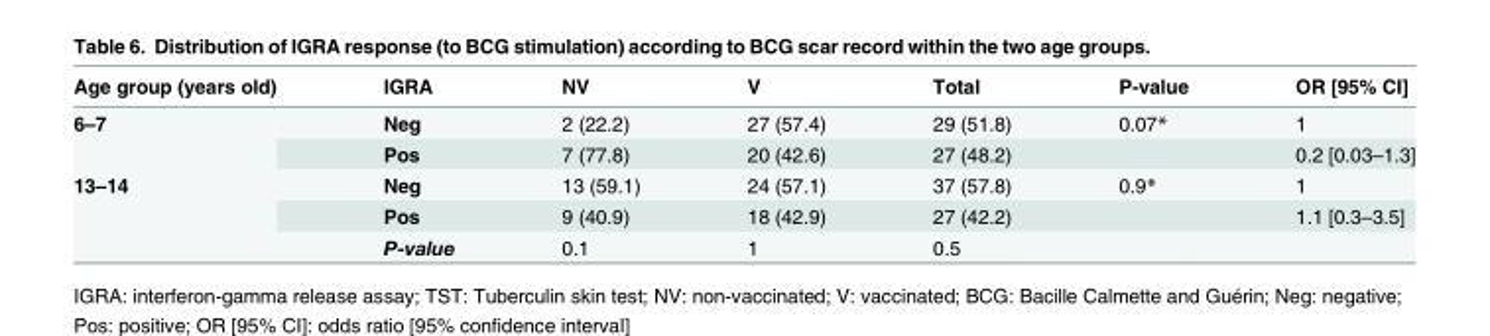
<table><thead><tr><td>Age group (years old)</td><td>IGRA</td><td>NV</td><td>V</td><td>Total</td><td>P-value</td><td>OR [95% CI]</td></tr></thead><tbody><tr><td rowspan="2">6–7</td><td>Neg</td><td>2 (22.2)</td><td>27 (57.4)</td><td>29 (51.8)</td><td>0.07*</td><td>1</td></tr><tr><td>Pos</td><td>7 (77.8)</td><td>20 (42.6)</td><td>27 (48.2)</td><td></td><td>0.2 [0.03–1.3]</td></tr><tr><td rowspan="3">13–14</td><td>Neg</td><td>13 (59.1)</td><td>24 (57.1)</td><td>37 (57.8)</td><td>0.9*</td><td>1</td></tr><tr><td>Pos</td><td>9 (40.9)</td><td>18 (42.9)</td><td>27 (42.2)</td><td></td><td>1.1 [0.3–3.5]</td></tr><tr><td>P-value</td><td>0.1</td><td>1</td><td>0.5</td><td></td><td></td></tr></tbody></table>